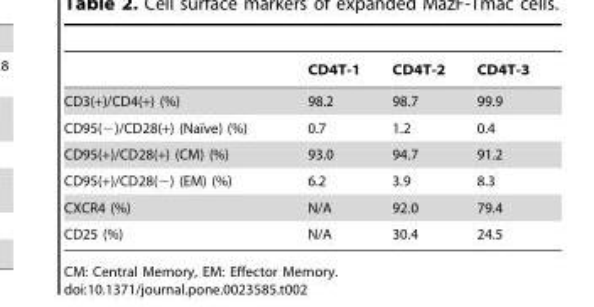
<table><thead><tr><td></td><td>CD4T-1</td><td>CD4T-2</td><td>CD4T-3</td></tr></thead><tbody><tr><td>CD3(+)/CD4(+) (%)</td><td>98.2</td><td>98.7</td><td>99.9</td></tr><tr><td>CD95(2)/CD28(+) (Naı¨ve) (%)</td><td>0.7</td><td>1.2</td><td>0.4</td></tr><tr><td>CD95(+)/CD28(+) (CM) (%)</td><td>93.0</td><td>94.7</td><td>91.2</td></tr><tr><td>CD95(+)/CD28(−) (EM) (%)</td><td>6.2</td><td>3.9</td><td>8.3</td></tr><tr><td>CXCR4 (%)</td><td>N/A</td><td>92.0</td><td>79.4</td></tr><tr><td>CD25 (%)</td><td>N/A</td><td>30.4</td><td>24.5</td></tr></tbody></table>